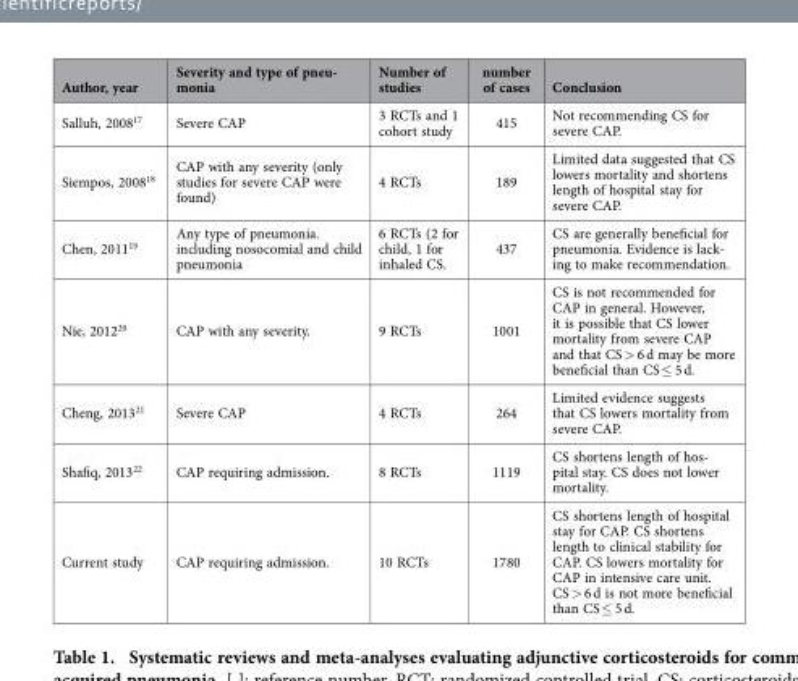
<table><thead><tr><td>Author, year</td><td>Severity and type of pneu- monia</td><td>Number of studies</td><td>number of cases</td><td>Conclusion</td></tr></thead><tbody><tr><td>Salluh, 2008<sup>17</sup></td><td>Severe CAP</td><td>3 RCTs and 1 cohort study</td><td>415</td><td>Not recommending CS for severe CAP.</td></tr><tr><td>Siempos, 2008<sup>18</sup></td><td>CAP with any severity (only studies for severe CAP were found)</td><td>4 RCTs</td><td>189</td><td>Limited data suggested that CS lowers mortality and shortens length of hospital stay for severe CAP.</td></tr><tr><td>Chen, 2011<sup>19</sup></td><td>Any type of pneumonia. including nosocomial and child pneumonia</td><td>6 RCTs (2 for child, 1 for inhaled CS.</td><td>437</td><td>CS are generally beneficial for pneumonia. Evidence is lack- ing to make recommendation.</td></tr><tr><td>Nie, 2012<sup>20</sup></td><td>CAP with any severity.</td><td>9 RCTs</td><td>1001</td><td>CS is not recommended for CAP in general. However, it is possible that CS lower mortality from severe CAP and that CS &gt; 6 d may be more beneficial than CS ≤ 5 d.</td></tr><tr><td>Cheng, 2013<sup>21</sup></td><td>Severe CAP</td><td>4 RCTs</td><td>264</td><td>Limited evidence suggests that CS lowers mortality from severe CAP.</td></tr><tr><td>Shafiq, 2013<sup>22</sup></td><td>CAP requiring admission.</td><td>8 RCTs</td><td>1119</td><td>CS shortens length of hos- pital stay. CS does not lower mortality.</td></tr><tr><td>Current study</td><td>CAP requiring admission.</td><td>10 RCTs</td><td>1780</td><td>CS shortens length of hospital stay for CAP. CS shortens length to clinical stability for CAP. CS lowers mortality for CAP in intensive care unit. CS &gt; 6 d is not more beneficial than CS ≤ 5 d.</td></tr></tbody></table>